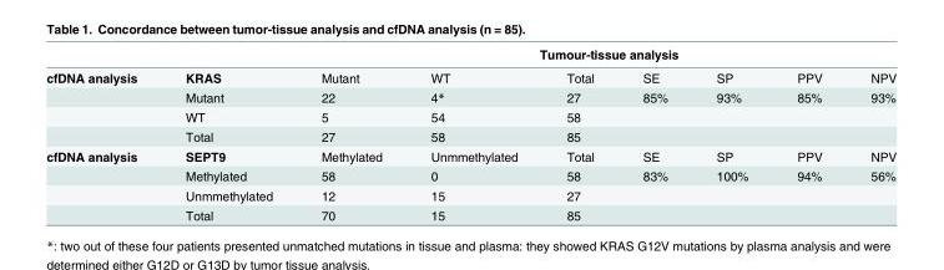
<table><thead><tr><td rowspan="2">cfDNA analysis</td><td rowspan="2">KRAS</td><td colspan="7">Tumour-tissue analysis</td></tr><tr><td>Mutant</td><td>WT</td><td>Total</td><td>SE</td><td>SP</td><td>PPV</td><td>NPV</td></tr></thead><tbody><tr><td></td><td>Mutant</td><td>22</td><td>4*</td><td>27</td><td>85%</td><td>93%</td><td>85%</td><td>93%</td></tr><tr><td></td><td>WT</td><td>5</td><td>54</td><td>58</td><td></td><td></td><td></td><td></td></tr><tr><td></td><td>Total</td><td>27</td><td>58</td><td>85</td><td></td><td></td><td></td><td></td></tr><tr><td rowspan="4">cfDNA analysis</td><td>SEPT9</td><td>Methylated</td><td>Unmmethylated</td><td>Total</td><td>SE</td><td>SP</td><td>PPV</td><td>NPV</td></tr><tr><td>Methylated</td><td>58</td><td>0</td><td>58</td><td>83%</td><td>100%</td><td>94%</td><td>56%</td></tr><tr><td>Unmmethylated</td><td>12</td><td>15</td><td>27</td><td></td><td></td><td></td><td></td></tr><tr><td>Total</td><td>70</td><td>15</td><td>85</td><td></td><td></td><td></td><td></td></tr></tbody></table>